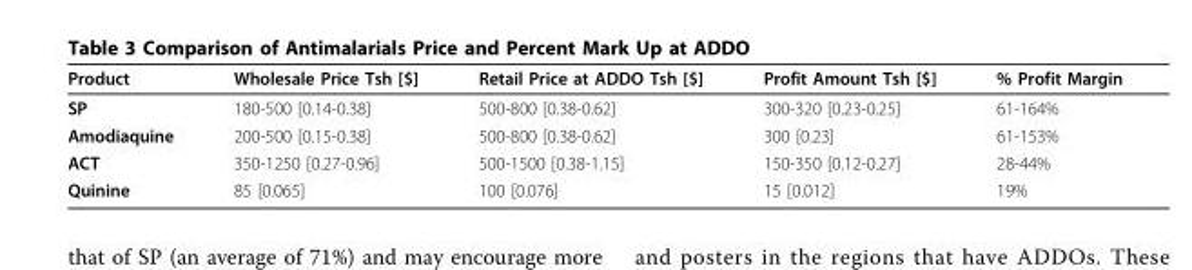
<table><thead><tr><td>Product</td><td>Wholesale Price Tsh [$]</td><td>Retail Price at ADDO Tsh [$]</td><td>Profit Amount Tsh [$]</td><td>% Profit Margin</td></tr></thead><tbody><tr><td>SP</td><td>180-500 [0.14-0.38]</td><td>500-800 [0.38-0.62]</td><td>300-320 [0.23-0.25]</td><td>61-164%</td></tr><tr><td>Amodiaquine</td><td>200-500 [0.15-0.38]</td><td>500-800 [0.38-0.62]</td><td>300 [0.23]</td><td>61-153%</td></tr><tr><td>ACT</td><td>350-1250 [0.27-0.96]</td><td>500-1500 [0.38-1.15]</td><td>150-350 [0.12-0.27]</td><td>28-44%</td></tr><tr><td>Quinine</td><td>85 [0.065]</td><td>100 [0.076]</td><td>15 [0.012]</td><td>19%</td></tr></tbody></table>